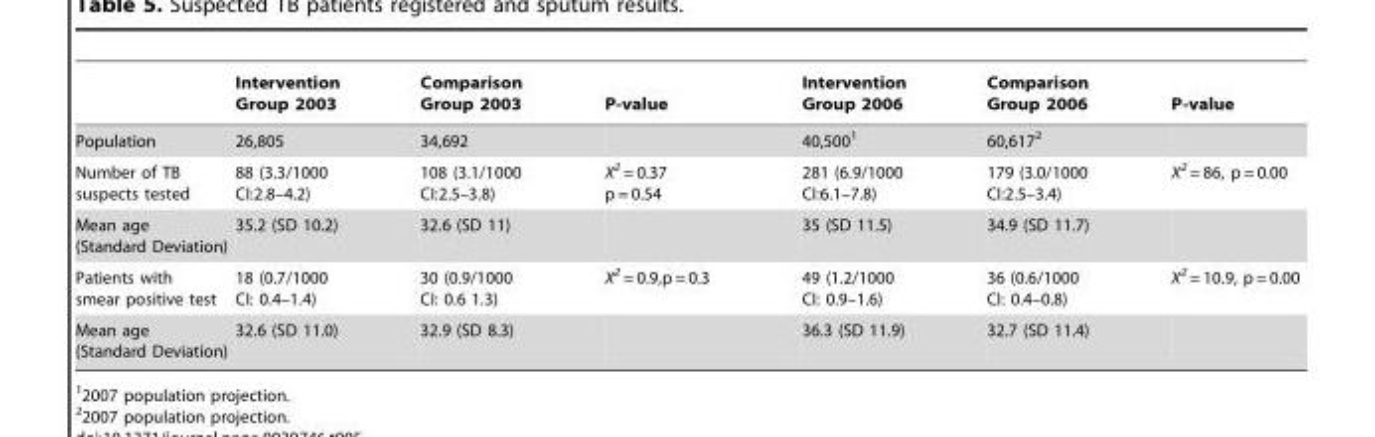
<table><thead><tr><td></td><td>Intervention Group 2003</td><td>Comparison Group 2003</td><td>P-value</td><td>Intervention Group 2006</td><td>Comparison Group 2006</td><td>P-value</td></tr></thead><tbody><tr><td>Population</td><td>26,805</td><td>34,692</td><td></td><td>40,500<sup>1</sup></td><td>60,617<sup>2</sup></td><td></td></tr><tr><td>Number of TB suspects tested</td><td>88 (3.3/1000 CI:2.8–4.2)</td><td>108 (3.1/1000 CI:2.5–3.8)</td><td>X<sup>2</sup> = 0.37 p = 0.54</td><td>281 (6.9/1000 CI:6.1–7.8)</td><td>179 (3.0/1000 CI:2.5–3.4)</td><td>X<sup>2</sup> = 86, p = 0.00</td></tr><tr><td>Mean age (Standard Deviation)</td><td>35.2 (SD 10.2)</td><td>32.6 (SD 11)</td><td></td><td>35 (SD 11.5)</td><td>34.9 (SD 11.7)</td><td></td></tr><tr><td>Patients with smear positive test</td><td>18 (0.7/1000 CI: 0.4–1.4)</td><td>30 (0.9/1000 CI: 0.6 1.3)</td><td>X<sup>2</sup> = 0.9,p = 0.3</td><td>49 (1.2/1000 CI: 0.9–1.6)</td><td>36 (0.6/1000 CI: 0.4–0.8)</td><td>X<sup>2</sup> = 10.9, p = 0.00</td></tr><tr><td>Mean age (Standard Deviation)</td><td>32.6 (SD 11.0)</td><td>32.9 (SD 8.3)</td><td></td><td>36.3 (SD 11.9)</td><td>32.7 (SD 11.4)</td><td></td></tr></tbody></table>